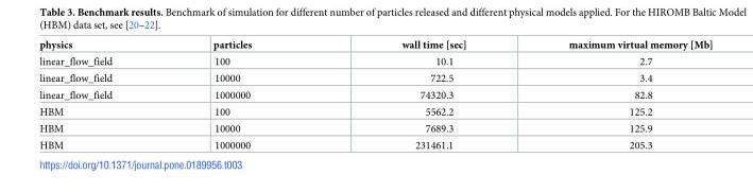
<table><thead><tr><td>physics</td><td>particles</td><td>wall time [sec]</td><td>maximum virtual memory [Mb]</td></tr></thead><tbody><tr><td>linear_flow_field</td><td>100</td><td>10.1</td><td>2.7</td></tr><tr><td>linear_flow_field</td><td>10000</td><td>722.5</td><td>3.4</td></tr><tr><td>linear_flow_field</td><td>1000000</td><td>74320.3</td><td>82.8</td></tr><tr><td>HBM</td><td>100</td><td>5562.2</td><td>125.2</td></tr><tr><td>HBM</td><td>10000</td><td>7689.3</td><td>125.9</td></tr><tr><td>HBM</td><td>1000000</td><td>231461.1</td><td>205.3</td></tr></tbody></table>